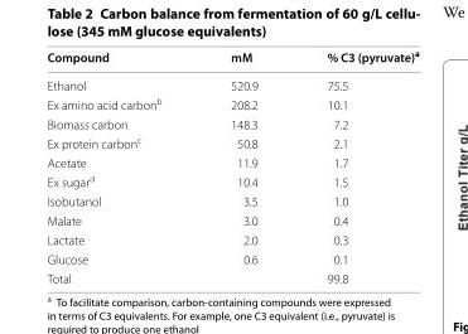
<table><thead><tr><td>Compound</td><td>mM</td><td>% C3 (pyruvate)<sup>a</sup></td></tr></thead><tbody><tr><td>Ethanol</td><td>520.9</td><td>75.5</td></tr><tr><td>Ex amino acid carbon<sup>b</sup></td><td>208.2</td><td>10.1</td></tr><tr><td>Biomass carbon</td><td>148.3</td><td>7.2</td></tr><tr><td>Ex protein carbon<sup>c</sup></td><td>50.8</td><td>2.1</td></tr><tr><td>Acetate</td><td>11.9</td><td>1.7</td></tr><tr><td>Ex sugar<sup>d</sup></td><td>10.4</td><td>1.5</td></tr><tr><td>Isobutanol</td><td>3.5</td><td>1.0</td></tr><tr><td>Malate</td><td>3.0</td><td>0.4</td></tr><tr><td>Lactate</td><td>2.0</td><td>0.3</td></tr><tr><td>Glucose</td><td>0.6</td><td>0.1</td></tr><tr><td>Total</td><td></td><td>99.8</td></tr></tbody></table>